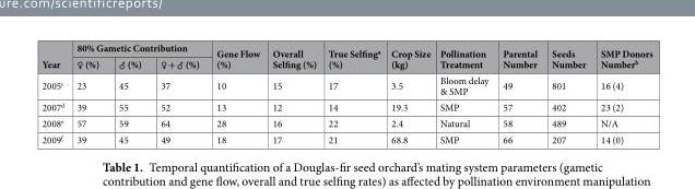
<table><thead><tr><td rowspan="2">Year</td><td colspan="3">80% Gametic Contribution</td><td rowspan="2">Gene Flow (%)</td><td rowspan="2">Overall Selfing (%)</td><td rowspan="2">True Selfing<sup>a</sup> (%)</td><td rowspan="2">Crop Size (kg)</td><td rowspan="2">Pollination Treatment</td><td rowspan="2">Parental Number</td><td rowspan="2">Seeds Number</td><td rowspan="2">SMP Donors Number<sup>b</sup></td></tr><tr><td>♀ (%)</td><td>♂ (%)</td><td>♀ + ♂ (%)</td></tr></thead><tbody><tr><td>2005<sup>c</sup></td><td>23</td><td>45</td><td>37</td><td>10</td><td>15</td><td>17</td><td>3.5</td><td>Bloom delay &amp; SMP</td><td>49</td><td>801</td><td>16 (4)</td></tr><tr><td>2007<sup>d</sup></td><td>39</td><td>55</td><td>52</td><td>13</td><td>12</td><td>14</td><td>19.3</td><td>SMP</td><td>57</td><td>402</td><td>23 (2)</td></tr><tr><td>2008<sup>e</sup></td><td>57</td><td>59</td><td>64</td><td>28</td><td>16</td><td>22</td><td>2.4</td><td>Natural</td><td>58</td><td>489</td><td>N/A</td></tr><tr><td>2009<sup>f</sup></td><td>39</td><td>45</td><td>49</td><td>18</td><td>17</td><td>21</td><td>68.8</td><td>SMP</td><td>66</td><td>207</td><td>14 (0)</td></tr></tbody></table>